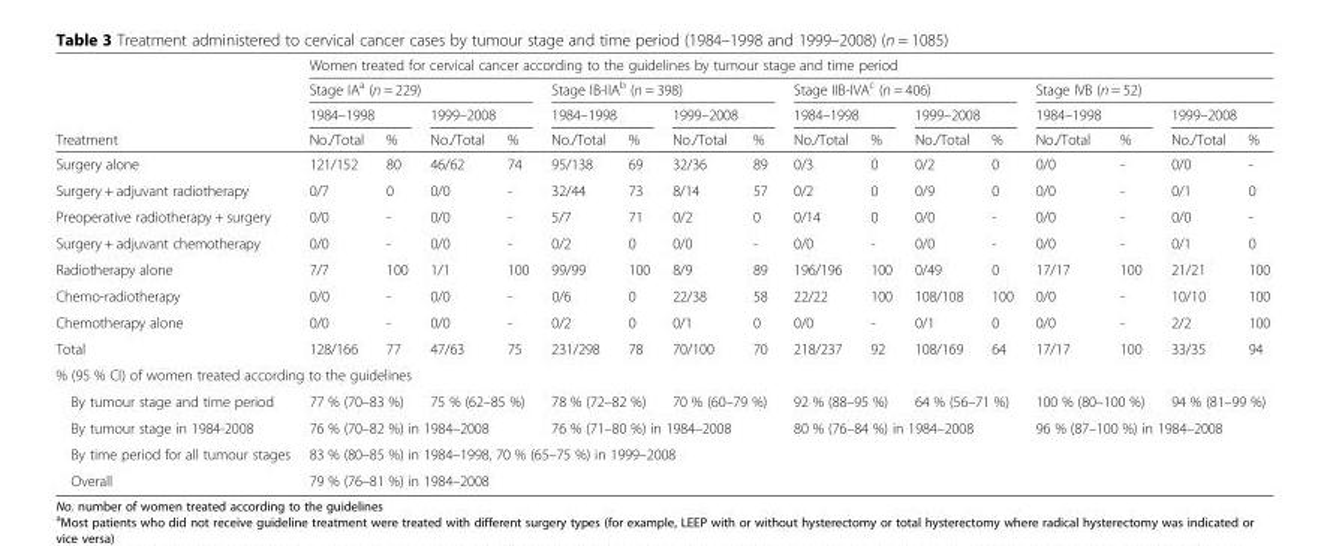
<table><thead><tr><td rowspan="4">Treatment</td><td colspan="16">Women treated for cervical cancer according to the guidelines by tumour stage and time period</td></tr><tr><td colspan="4">Stage IA<sup>a</sup> (n = 229)</td><td colspan="4">Stage IB-IIA<sup>b</sup> (n = 398)</td><td colspan="4">Stage IIB-IVA<sup>c</sup> (n = 406)</td><td colspan="4">Stage IVB (n = 52)</td></tr><tr><td colspan="2">1984–1998</td><td colspan="2">1999–2008</td><td colspan="2">1984–1998</td><td colspan="2">1999–2008</td><td colspan="2">1984–1998</td><td colspan="2">1999–2008</td><td colspan="2">1984–1998</td><td colspan="2">1999–2008</td></tr><tr><td>No./Total</td><td>%</td><td>No./Total</td><td>%</td><td>No./Total</td><td>%</td><td>No./Total</td><td>%</td><td>No./Total</td><td>%</td><td>No./Total</td><td>%</td><td>No./Total</td><td>%</td><td>No./Total</td><td>%</td></tr></thead><tbody><tr><td>Surgery alone</td><td>121/152</td><td>80</td><td>46/62</td><td>74</td><td>95/138</td><td>69</td><td>32/36</td><td>89</td><td>0/3</td><td>0</td><td>0/2</td><td>0</td><td>0/0</td><td>-</td><td>0/0</td><td>-</td></tr><tr><td>Surgery + adjuvant radiotherapy</td><td>0/7</td><td>0</td><td>0/0</td><td>-</td><td>32/44</td><td>73</td><td>8/14</td><td>57</td><td>0/2</td><td>0</td><td>0/9</td><td>0</td><td>0/0</td><td>-</td><td>0/1</td><td>0</td></tr><tr><td>Preoperative radiotherapy + surgery</td><td>0/0</td><td>-</td><td>0/0</td><td>-</td><td>5/7</td><td>71</td><td>0/2</td><td>0</td><td>0/14</td><td>0</td><td>0/0</td><td>-</td><td>0/0</td><td>-</td><td>0/0</td><td>-</td></tr><tr><td>Surgery + adjuvant chemotherapy</td><td>0/0</td><td>-</td><td>0/0</td><td>-</td><td>0/2</td><td>0</td><td>0/0</td><td>-</td><td>0/0</td><td>-</td><td>0/0</td><td>-</td><td>0/0</td><td>-</td><td>0/1</td><td>0</td></tr><tr><td>Radiotherapy alone</td><td>7/7</td><td>100</td><td>1/1</td><td>100</td><td>99/99</td><td>100</td><td>8/9</td><td>89</td><td>196/196</td><td>100</td><td>0/49</td><td>0</td><td>17/17</td><td>100</td><td>21/21</td><td>100</td></tr><tr><td>Chemo-radiotherapy</td><td>0/0</td><td>-</td><td>0/0</td><td>-</td><td>0/6</td><td>0</td><td>22/38</td><td>58</td><td>22/22</td><td>100</td><td>108/108</td><td>100</td><td>0/0</td><td>-</td><td>10/10</td><td>100</td></tr><tr><td>Chemotherapy alone</td><td>0/0</td><td>-</td><td>0/0</td><td>-</td><td>0/2</td><td>0</td><td>0/1</td><td>0</td><td>0/0</td><td>-</td><td>0/1</td><td>0</td><td>0/0</td><td>-</td><td>2/2</td><td>100</td></tr><tr><td>Total</td><td>128/166</td><td>77</td><td>47/63</td><td>75</td><td>231/298</td><td>78</td><td>70/100</td><td>70</td><td>218/237</td><td>92</td><td>108/169</td><td>64</td><td>17/17</td><td>100</td><td>33/35</td><td>94</td></tr><tr><td colspan="17">% (95 % CI) of women treated according to the guidelines</td></tr><tr><td>By tumour stage and time period</td><td colspan="2">77 % (70–83 %)</td><td colspan="2">75 % (62–85 %)</td><td colspan="2">78 % (72–82 %)</td><td colspan="2">70 % (60–79 %)</td><td colspan="2">92 % (88–95 %)</td><td colspan="2">64 % (56–71 %)</td><td colspan="2">100 % (80–100 %)</td><td colspan="2">94 % (81–99 %)</td></tr><tr><td>By tumour stage in 1984-2008</td><td colspan="4">76 % (70–82 %) in 1984–2008</td><td colspan="4">76 % (71–80 %) in 1984–2008</td><td colspan="4">80 % (76–84 %) in 1984–2008</td><td colspan="4">96 % (87–100 %) in 1984–2008</td></tr><tr><td>By time period for all tumour stages</td><td colspan="16">83 % (80–85 %) in 1984–1998, 70 % (65–75 %) in 1999–2008</td></tr><tr><td>Overall</td><td colspan="16">79 % (76–81 %) in 1984–2008</td></tr></tbody></table>